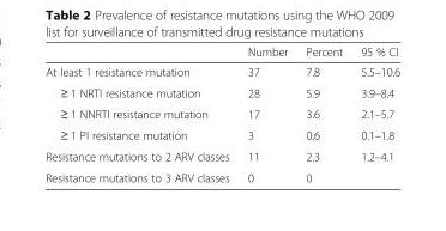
<table><thead><tr><td></td><td>Number</td><td>Percent</td><td>95 % CI</td></tr></thead><tbody><tr><td>At least 1 resistance mutation</td><td>37</td><td>7.8</td><td>5.5–10.6</td></tr><tr><td>≥ 1 NRTI resistance mutation</td><td>28</td><td>5.9</td><td>3.9–8.4</td></tr><tr><td>≥ 1 NNRTI resistance mutation</td><td>17</td><td>3.6</td><td>2.1–5.7</td></tr><tr><td>≥ 1 PI resistance mutation</td><td>3</td><td>0.6</td><td>0.1–1.8</td></tr><tr><td>Resistance mutations to 2 ARV classes</td><td>11</td><td>2.3</td><td>1.2–4.1</td></tr><tr><td>Resistance mutations to 3 ARV classes</td><td>0</td><td>0</td><td></td></tr></tbody></table>